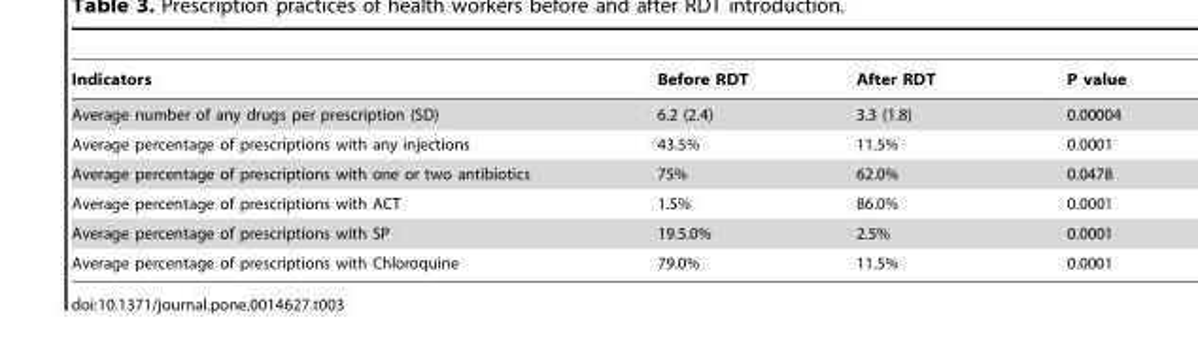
<table><thead><tr><td>Indicators</td><td>Before RDT</td><td>After RDT</td><td>P value</td></tr></thead><tbody><tr><td>Average number of any drugs per prescription (SD)</td><td>6.2 (2.4)</td><td>3.3 (1.8)</td><td>0.00004</td></tr><tr><td>Average percentage of prescriptions with any injections</td><td>43.5%</td><td>11.5%</td><td>0.0001</td></tr><tr><td>Average percentage of prescriptions with one or two antibiotics</td><td>75%</td><td>62.0%</td><td>0.0478</td></tr><tr><td>Average percentage of prescriptions with ACT</td><td>1.5%</td><td>86.0%</td><td>0.0001</td></tr><tr><td>Average percentage of prescriptions with SP</td><td>19.5.0%</td><td>2.5%</td><td>0.0001</td></tr><tr><td>Average percentage of prescriptions with Chloroquine</td><td>79.0%</td><td>11.5%</td><td>0.0001</td></tr></tbody></table>